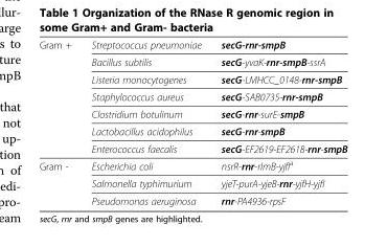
<table><tbody><tr><td rowspan="7">Gram +</td><td>Streptococcus pneumoniae</td><td>secG-rnr-smpB</td></tr><tr><td>Bacillus subtilis</td><td>secG-yvaK-rnr-smpB-ssrA</td></tr><tr><td>Listeria monocytogenes</td><td>secG-LMHCC_0148-rnr-smpB</td></tr><tr><td>Staphylococcus aureus</td><td>secG-SAB0735-rnr-smpB</td></tr><tr><td>Clostridium botulinum</td><td>secG-rnr-surE-smpB</td></tr><tr><td>Lactobacillus acidophilus</td><td>secG-rnr-smpB</td></tr><tr><td>Enterococcus faecalis</td><td>secG-EF2619-EF2618-rnr-smpB</td></tr><tr><td rowspan="3">Gram -</td><td>Escherichia coli</td><td>nsrR-rnr-rlmB-yjfI<sup>a</sup></td></tr><tr><td>Salmonella typhimurium</td><td>yjeT-purA-yjeB-rnr-yjfH-yjfI</td></tr><tr><td>Pseudomonas aeruginosa</td><td>rnr-PA4936-rpsF</td></tr></tbody></table>